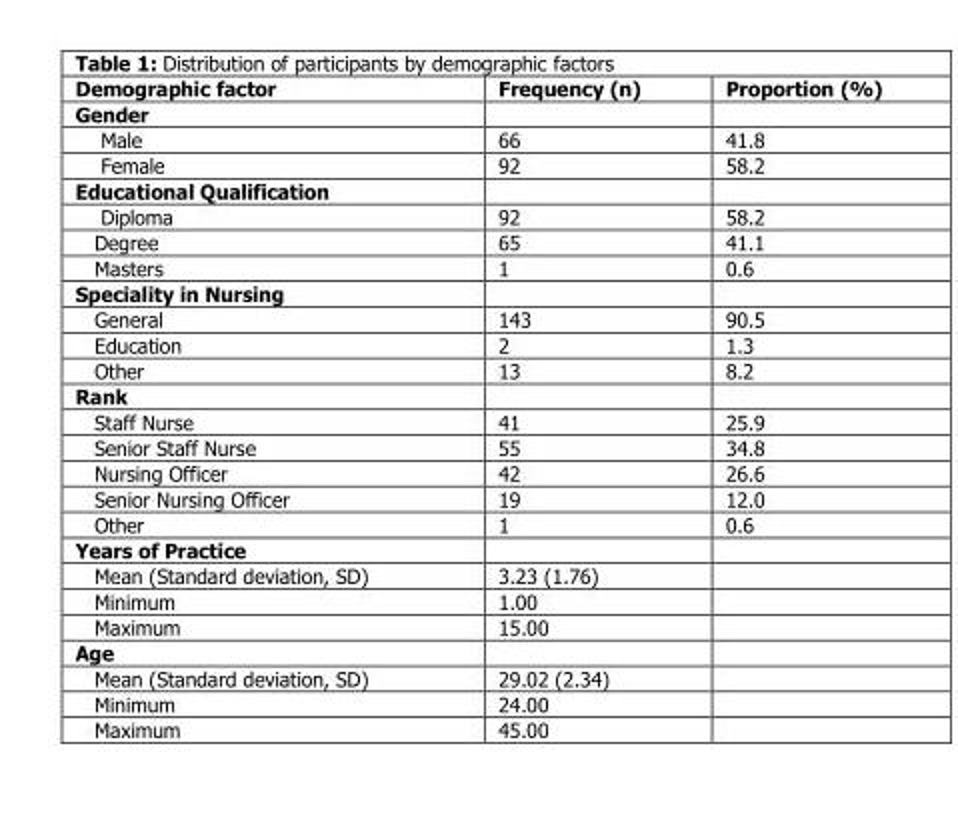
<table><thead><tr><td>Demographic factor</td><td>Frequency (n)</td><td>Proportion (%)</td></tr></thead><tbody><tr><td colspan="3">Gender</td></tr><tr><td>Male</td><td>66</td><td>41.8</td></tr><tr><td>Female</td><td>92</td><td>58.2</td></tr><tr><td colspan="3">Educational Qualification</td></tr><tr><td>Diploma</td><td>92</td><td>58.2</td></tr><tr><td>Degree</td><td>65</td><td>41.1</td></tr><tr><td>Masters</td><td>1</td><td>0.6</td></tr><tr><td colspan="3">Speciality in Nursing</td></tr><tr><td>General</td><td>143</td><td>90.5</td></tr><tr><td>Education</td><td>2</td><td>1.3</td></tr><tr><td>Other</td><td>13</td><td>8.2</td></tr><tr><td colspan="3">Rank</td></tr><tr><td>Staff Nurse</td><td>41</td><td>25.9</td></tr><tr><td>Senior Staff Nurse</td><td>55</td><td>34.8</td></tr><tr><td>Nursing Officer</td><td>42</td><td>26.6</td></tr><tr><td>Senior Nursing Officer</td><td>19</td><td>12.0</td></tr><tr><td>Other</td><td>1</td><td>0.6</td></tr><tr><td colspan="3">Years of Practice</td></tr><tr><td>Mean (Standard deviation, SD)</td><td>3.23 (1.76)</td><td></td></tr><tr><td>Minimum</td><td>1.00</td><td></td></tr><tr><td>Maximum</td><td>15.00</td><td></td></tr><tr><td colspan="3">Age</td></tr><tr><td>Mean (Standard deviation, SD)</td><td>29.02 (2.34)</td><td></td></tr><tr><td>Minimum</td><td>24.00</td><td></td></tr><tr><td>Maximum</td><td>45.00</td><td></td></tr></tbody></table>